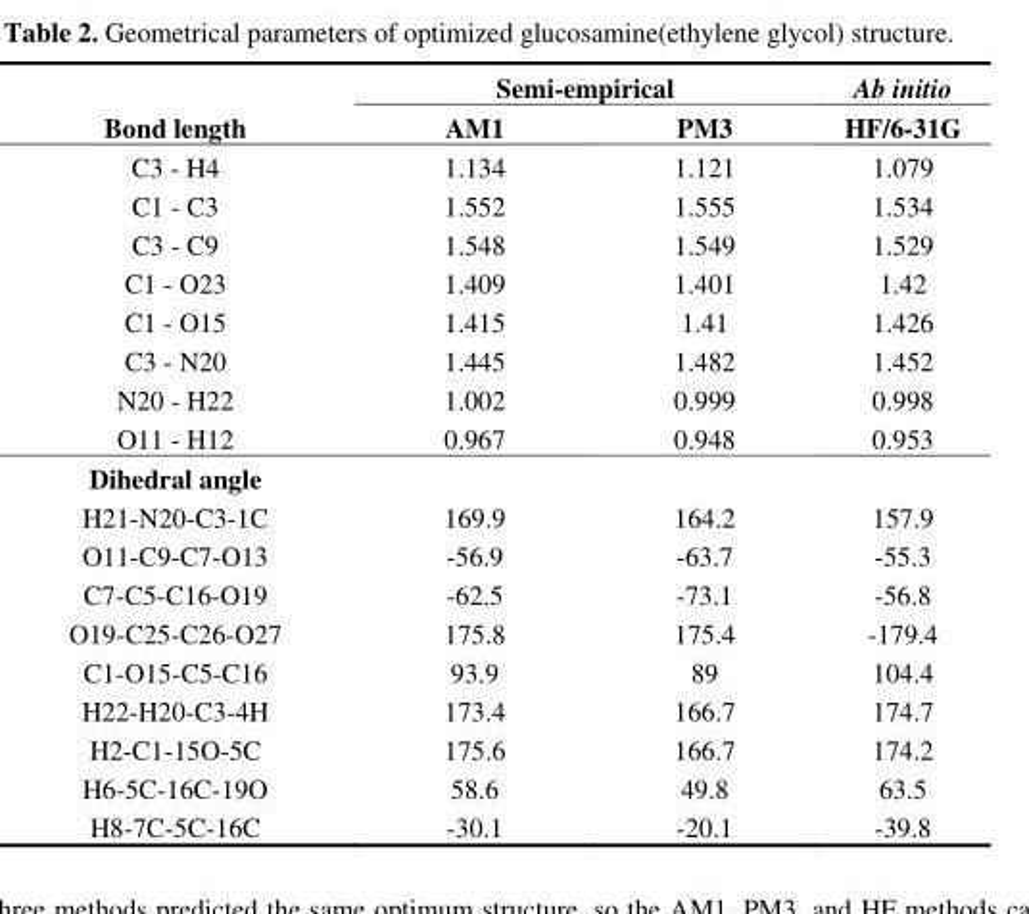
<table><thead><tr><td rowspan="2">Bond length</td><td colspan="2">Semi-empirical</td><td rowspan="2">Ab initio HF/6-31G</td></tr><tr><td>AM1</td><td>PM3</td></tr></thead><tbody><tr><td>C3 - H4</td><td>1.134</td><td>1.121</td><td>1.079</td></tr><tr><td>C1 - C3</td><td>1.552</td><td>1.555</td><td>1.534</td></tr><tr><td>C3 - C9</td><td>1.548</td><td>1.549</td><td>1.529</td></tr><tr><td>C1 - O23</td><td>1.409</td><td>1.401</td><td>1.42</td></tr><tr><td>C1 - O15</td><td>1.415</td><td>1.41</td><td>1.426</td></tr><tr><td>C3 - N20</td><td>1.445</td><td>1.482</td><td>1.452</td></tr><tr><td>N20 - H22</td><td>1.002</td><td>0.999</td><td>0.998</td></tr><tr><td>O11 - H12</td><td>0.967</td><td>0.948</td><td>0.953</td></tr><tr><td colspan="4">Dihedral angle</td></tr><tr><td>H21-N20-C3-1C</td><td>169.9</td><td>164.2</td><td>157.9</td></tr><tr><td>O11-C9-C7-O13</td><td>-56.9</td><td>-63.7</td><td>-55.3</td></tr><tr><td>C7-C5-C16-O19</td><td>-62.5</td><td>-73.1</td><td>-56.8</td></tr><tr><td>O19-C25-C26-O27</td><td>175.8</td><td>175.4</td><td>-179.4</td></tr><tr><td>C1-O15-C5-C16</td><td>93.9</td><td>89</td><td>104.4</td></tr><tr><td>H22-H20-C3-4H</td><td>173.4</td><td>166.7</td><td>174.7</td></tr><tr><td>H2-C1-15O-5C</td><td>175.6</td><td>166.7</td><td>174.2</td></tr><tr><td>H6-5C-16C-19O</td><td>58.6</td><td>49.8</td><td>63.5</td></tr><tr><td>H8-7C-5C-16C</td><td>-30.1</td><td>-20.1</td><td>-39.8</td></tr></tbody></table>